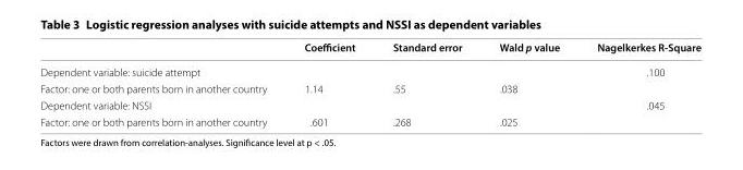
<table><thead><tr><td></td><td>Coefficient</td><td>Standard error</td><td>Wald p value</td><td>Nagelkerkes R-Square</td></tr></thead><tbody><tr><td>Dependent variable: suicide attempt</td><td></td><td></td><td></td><td>.100</td></tr><tr><td>Factor: one or both parents born in another country</td><td>1.14</td><td>.55</td><td>.038</td><td></td></tr><tr><td>Dependent variable: NSSI</td><td></td><td></td><td></td><td>.045</td></tr><tr><td>Factor: one or both parents born in another country</td><td>.601</td><td>.268</td><td>.025</td><td></td></tr></tbody></table>